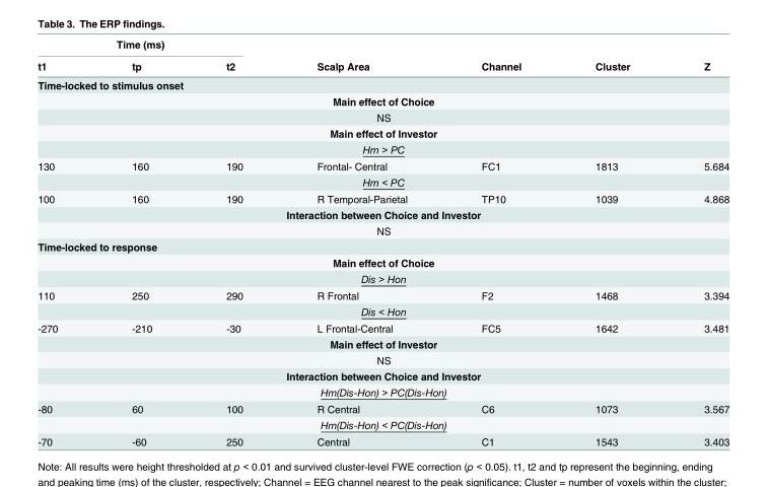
<table><thead><tr><td colspan="3">Time (ms)</td><td rowspan="2">Scalp Area</td><td rowspan="2">Channel</td><td rowspan="2">Cluster</td><td rowspan="2">Z</td></tr><tr><td>t1</td><td>tp</td><td>t2</td></tr></thead><tbody><tr><td colspan="7">Time-locked to stimulus onset</td></tr><tr><td colspan="7">Main effect of Choice</td></tr><tr><td colspan="7">NS</td></tr><tr><td colspan="7">Main effect of Investor</td></tr><tr><td colspan="7">Hm &gt; PC</td></tr><tr><td>130</td><td>160</td><td>190</td><td>Frontal- Central</td><td>FC1</td><td>1813</td><td>5.684</td></tr><tr><td colspan="7">Hm &lt; PC</td></tr><tr><td>100</td><td>160</td><td>190</td><td>R Temporal-Parietal</td><td>TP10</td><td>1039</td><td>4.868</td></tr><tr><td colspan="7">Interaction between Choice and Investor</td></tr><tr><td colspan="7">NS</td></tr><tr><td colspan="7">Time-locked to response</td></tr><tr><td colspan="7">Main effect of Choice</td></tr><tr><td colspan="7">Dis &gt; Hon</td></tr><tr><td>110</td><td>250</td><td>290</td><td>R Frontal</td><td>F2</td><td>1468</td><td>3.394</td></tr><tr><td colspan="7">Dis &lt; Hon</td></tr><tr><td>-270</td><td>-210</td><td>-30</td><td>L Frontal-Central</td><td>FC5</td><td>1642</td><td>3.481</td></tr><tr><td colspan="7">Main effect of Investor</td></tr><tr><td colspan="7">NS</td></tr><tr><td colspan="7">Interaction between Choice and Investor</td></tr><tr><td colspan="7">Hm(Dis-Hon) &gt; PC(Dis-Hon)</td></tr><tr><td>-80</td><td>60</td><td>100</td><td>R Central</td><td>C6</td><td>1073</td><td>3.567</td></tr><tr><td colspan="7">Hm(Dis-Hon) &lt; PC(Dis-Hon)</td></tr><tr><td>-70</td><td>-60</td><td>250</td><td>Central</td><td>C1</td><td>1543</td><td>3.403</td></tr></tbody></table>